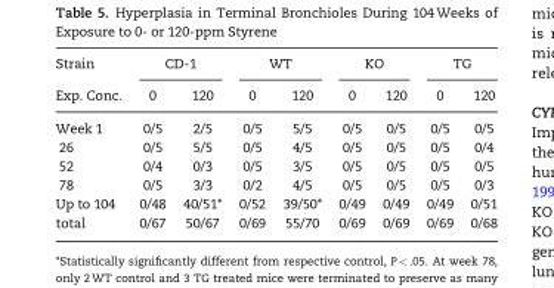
<table><thead><tr><td rowspan="2">Strain Exp. Conc.</td><td colspan="2">CD-1</td><td colspan="2">WT</td><td colspan="2">KO</td><td colspan="2">TG</td></tr><tr><td>0</td><td>120</td><td>0</td><td>120</td><td>0</td><td>120</td><td>0</td><td>120</td></tr></thead><tbody><tr><td>Week 1</td><td>0/5</td><td>2/5</td><td>0/5</td><td>5/5</td><td>0/5</td><td>0/5</td><td>0/5</td><td>0/5</td></tr><tr><td>26</td><td>0/5</td><td>5/5</td><td>0/5</td><td>4/5</td><td>0/5</td><td>0/5</td><td>0/5</td><td>0/4</td></tr><tr><td>52</td><td>0/4</td><td>0/3</td><td>0/5</td><td>3/5</td><td>0/5</td><td>0/5</td><td>0/5</td><td>0/5</td></tr><tr><td>78</td><td>0/5</td><td>3/3</td><td>0/2</td><td>4/5</td><td>0/5</td><td>0/5</td><td>0/5</td><td>0/3</td></tr><tr><td>Up to 104</td><td>0/48</td><td>40/51*</td><td>0/52</td><td>39/50*</td><td>0/49</td><td>0/49</td><td>0/49</td><td>0/51</td></tr><tr><td>total</td><td>0/67</td><td>50/67</td><td>0/69</td><td>55/70</td><td>0/69</td><td>0/69</td><td>0/69</td><td>0/68</td></tr></tbody></table>